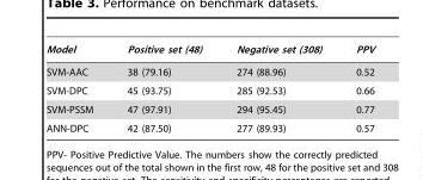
<table><thead><tr><td>Model</td><td>Positive set (48)</td><td>Negative set (308)</td><td>PPV</td></tr></thead><tbody><tr><td>SVM-AAC</td><td>38 (79.16)</td><td>274 (88.96)</td><td>0.52</td></tr><tr><td>SVM-DPC</td><td>45 (93.75)</td><td>285 (92.53)</td><td>0.66</td></tr><tr><td>SVM-PSSM</td><td>47 (97.91)</td><td>294 (95.45)</td><td>0.77</td></tr><tr><td>ANN-DPC</td><td>42 (87.50)</td><td>277 (89.93)</td><td>0.57</td></tr></tbody></table>